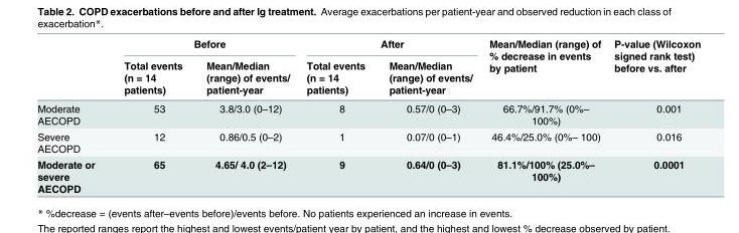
<table><thead><tr><td rowspan="2"></td><td colspan="2">Before</td><td colspan="2">After</td><td rowspan="2">Mean/Median (range) of % decrease in events by patient</td><td rowspan="2">P-value (Wilcoxon signed rank test) before vs. after</td></tr><tr><td>Total events (n = 14 patients)</td><td>Mean/Median (range) of events/ patient-year</td><td>Total events (n = 14 patients)</td><td>Mean/Median (range) of events/ patient-year</td></tr></thead><tbody><tr><td>Moderate AECOPD</td><td>53</td><td>3.8/3.0 (0–12)</td><td>8</td><td>0.57/0 (0–3)</td><td>66.7%/91.7% (0%– 100%)</td><td>0.001</td></tr><tr><td>Severe AECOPD</td><td>12</td><td>0.86/0.5 (0–2)</td><td>1</td><td>0.07/0 (0–1)</td><td>46.4%/25.0% (0%– 100)</td><td>0.016</td></tr><tr><td>Moderate or severe AECOPD</td><td>65</td><td>4.65/ 4.0 (2–12)</td><td>9</td><td>0.64/0 (0–3)</td><td>81.1%/100% (25.0%– 100%)</td><td>0.0001</td></tr></tbody></table>